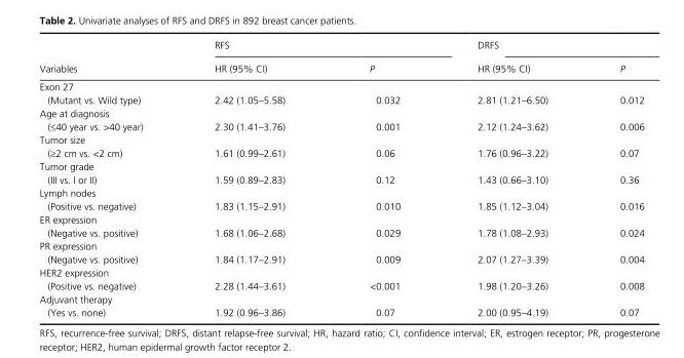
<table><thead><tr><td rowspan="2">Variables</td><td colspan="2">RFS</td><td colspan="2">DRFS</td></tr><tr><td>HR (95% CI)</td><td>P</td><td>HR (95% CI)</td><td>P</td></tr></thead><tbody><tr><td colspan="5">Exon 27</td></tr><tr><td>(Mutant vs. Wild type)</td><td>2.42 (1.05–5.58)</td><td>0.032</td><td>2.81 (1.21–6.50)</td><td>0.012</td></tr><tr><td colspan="5">Age at diagnosis</td></tr><tr><td>(≤40 year vs. &gt;40 year)</td><td>2.30 (1.41–3.76)</td><td>0.001</td><td>2.12 (1.24–3.62)</td><td>0.006</td></tr><tr><td colspan="5">Tumor size</td></tr><tr><td>(≥2 cm vs. &lt;2 cm)</td><td>1.61 (0.99–2.61)</td><td>0.06</td><td>1.76 (0.96–3.22)</td><td>0.07</td></tr><tr><td colspan="5">Tumor grade</td></tr><tr><td>(III vs. I or II)</td><td>1.59 (0.89–2.83)</td><td>0.12</td><td>1.43 (0.66–3.10)</td><td>0.36</td></tr><tr><td colspan="5">Lymph nodes</td></tr><tr><td>(Positive vs. negative)</td><td>1.83 (1.15–2.91)</td><td>0.010</td><td>1.85 (1.12–3.04)</td><td>0.016</td></tr><tr><td colspan="5">ER expression</td></tr><tr><td>(Negative vs. positive)</td><td>1.68 (1.06–2.68)</td><td>0.029</td><td>1.78 (1.08–2.93)</td><td>0.024</td></tr><tr><td colspan="5">PR expression</td></tr><tr><td>(Negative vs. positive)</td><td>1.84 (1.17–2.91)</td><td>0.009</td><td>2.07 (1.27–3.39)</td><td>0.004</td></tr><tr><td colspan="5">HER2 expression</td></tr><tr><td>(Positive vs. negative)</td><td>2.28 (1.44–3.61)</td><td>&lt;0.001</td><td>1.98 (1.20–3.26)</td><td>0.008</td></tr><tr><td colspan="5">Adjuvant therapy</td></tr><tr><td>(Yes vs. none)</td><td>1.92 (0.96–3.86)</td><td>0.07</td><td>2.00 (0.95–4.19)</td><td>0.07</td></tr></tbody></table>